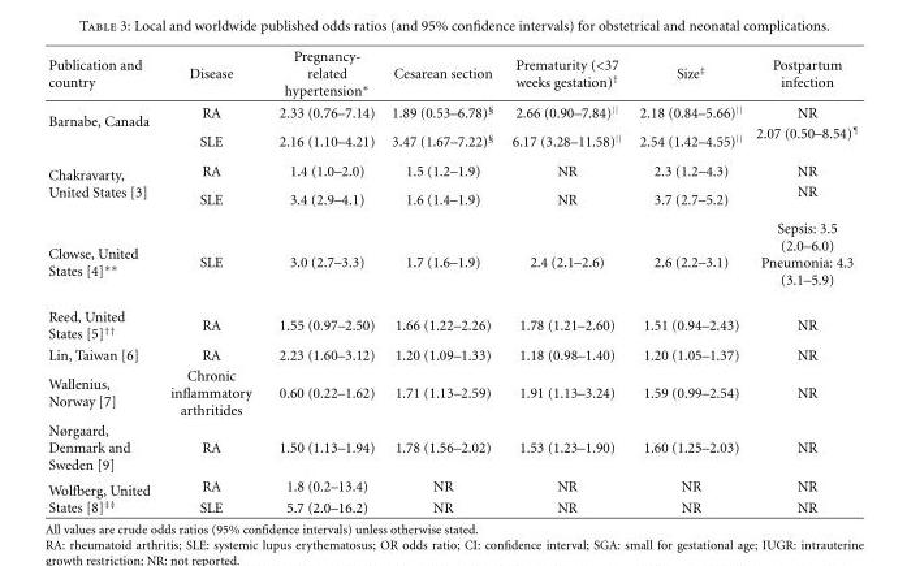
<table><thead><tr><td>Publication and country</td><td>Disease</td><td>Pregnancy- related hypertension∗</td><td>Cesarean section</td><td>Prematurity (&lt;37 weeks gestation)<sup>†</sup></td><td>Size<sup>‡</sup></td><td>Postpartum infection</td></tr></thead><tbody><tr><td rowspan="2">Barnabe, Canada</td><td>RA</td><td>2.33 (0.76–7.14)</td><td>1.89 (0.53–6.78)<sup>§</sup></td><td>2.66 (0.90–7.84)<sup>||</sup></td><td>2.18 (0.84–5.66)<sup>||</sup></td><td>NR</td></tr><tr><td>SLE</td><td>2.16 (1.10–4.21)</td><td>3.47 (1.67–7.22)<sup>§</sup></td><td>6.17 (3.28–11.58)<sup>||</sup></td><td>2.54 (1.42–4.55)<sup>||</sup></td><td>2.07 (0.50–8.54)<sup>¶</sup></td></tr><tr><td rowspan="2">Chakravarty, United States [3]</td><td>RA</td><td>1.4 (1.0–2.0)</td><td>1.5 (1.2–1.9)</td><td>NR</td><td>2.3 (1.2–4.3)</td><td>NR</td></tr><tr><td>SLE</td><td>3.4 (2.9–4.1)</td><td>1.6 (1.4–1.9)</td><td>NR</td><td>3.7 (2.7–5.2)</td><td>NR</td></tr><tr><td>Clowse, United States [4]∗∗</td><td>SLE</td><td>3.0 (2.7–3.3)</td><td>1.7 (1.6–1.9)</td><td>2.4 (2.1–2.6)</td><td>2.6 (2.2–3.1)</td><td>Sepsis: 3.5 (2.0–6.0) Pneumonia: 4.3 (3.1–5.9)</td></tr><tr><td>Reed, United States [5]<sup>††</sup></td><td>RA</td><td>1.55 (0.97–2.50)</td><td>1.66 (1.22–2.26)</td><td>1.78 (1.21–2.60)</td><td>1.51 (0.94–2.43)</td><td>NR</td></tr><tr><td>Lin, Taiwan [6]</td><td>RA</td><td>2.23 (1.60–3.12)</td><td>1.20 (1.09–1.33)</td><td>1.18 (0.98–1.40)</td><td>1.20 (1.05–1.37)</td><td>NR</td></tr><tr><td>Wallenius, Norway [7]</td><td>Chronic inflammatory arthritides</td><td>0.60 (0.22–1.62)</td><td>1.71 (1.13–2.59)</td><td>1.91 (1.13–3.24)</td><td>1.59 (0.99–2.54)</td><td>NR</td></tr><tr><td>Nørgaard, Denmark and Sweden [9]</td><td>RA</td><td>1.50 (1.13–1.94)</td><td>1.78 (1.56–2.02)</td><td>1.53 (1.23–1.90)</td><td>1.60 (1.25–2.03)</td><td>NR</td></tr><tr><td rowspan="2">Wolfberg, United States [8]<sup>‡‡</sup></td><td>RA</td><td>1.8 (0.2–13.4)</td><td>NR</td><td>NR</td><td>NR</td><td>NR</td></tr><tr><td>SLE</td><td>5.7 (2.0–16.2)</td><td>NR</td><td>NR</td><td>NR</td><td>NR</td></tr></tbody></table>